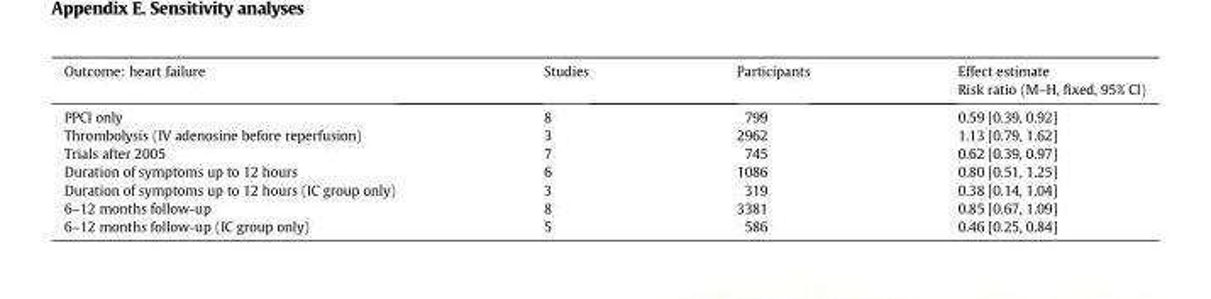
<table><thead><tr><td>Outcome: heart failure</td><td>Studies</td><td>Participants</td><td>Effect estimate Risk ratio (M–H, fixed, 95% CI)</td></tr></thead><tbody><tr><td>PPCI only</td><td>8</td><td>799</td><td>0.59 [0.39, 0.92]</td></tr><tr><td>Thrombolysis (IV adenosine before reperfusion)</td><td>3</td><td>2962</td><td>1.13 [0.79, 1.62]</td></tr><tr><td>Trials after 2005</td><td>7</td><td>745</td><td>0.62 [0.39, 0.97]</td></tr><tr><td>Duration of symptoms up to 12 hours</td><td>6</td><td>1086</td><td>0.80 [0.51, 1.25]</td></tr><tr><td>Duration of symptoms up to 12 hours (IC group only)</td><td>3</td><td>319</td><td>0.38 [0.14, 1.04]</td></tr><tr><td>6–12 months follow-up</td><td>8</td><td>3381</td><td>0.85 [0.67, 1.09]</td></tr><tr><td>6–12 months follow-up (IC group only)</td><td>5</td><td>586</td><td>0.46 [0.25, 0.84]</td></tr></tbody></table>